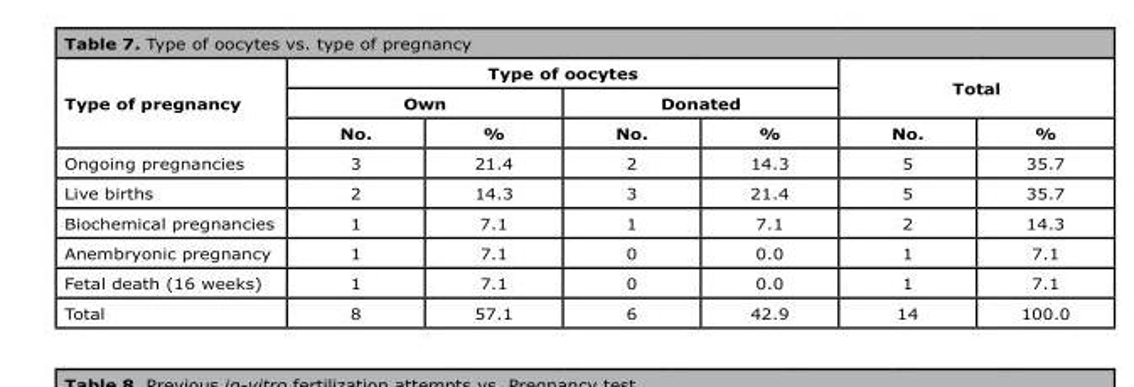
<table><thead><tr><td rowspan="3">Type of pregnancy</td><td colspan="4">Type of oocytes</td><td rowspan="2" colspan="2">Total</td></tr><tr><td colspan="2">Own</td><td colspan="2">Donated</td></tr><tr><td>No.</td><td>%</td><td>No.</td><td>%</td><td>No.</td><td>%</td></tr></thead><tbody><tr><td>Ongoing pregnancies</td><td>3</td><td>21.4</td><td>2</td><td>14.3</td><td>5</td><td>35.7</td></tr><tr><td>Live births</td><td>2</td><td>14.3</td><td>3</td><td>21.4</td><td>5</td><td>35.7</td></tr><tr><td>Biochemical pregnancies</td><td>1</td><td>7.1</td><td>1</td><td>7.1</td><td>2</td><td>14.3</td></tr><tr><td>Anembryonic pregnancy</td><td>1</td><td>7.1</td><td>0</td><td>0.0</td><td>1</td><td>7.1</td></tr><tr><td>Fetal death (16 weeks)</td><td>1</td><td>7.1</td><td>0</td><td>0.0</td><td>1</td><td>7.1</td></tr><tr><td>Total</td><td>8</td><td>57.1</td><td>6</td><td>42.9</td><td>14</td><td>100.0</td></tr></tbody></table>